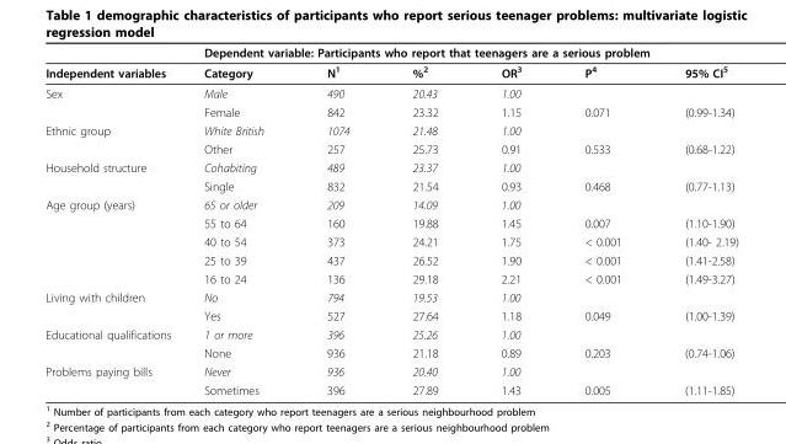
<table><thead><tr><td rowspan="2">Independent variables</td><td colspan="6">Dependent variable: Participants who report that teenagers are a serious problem</td></tr><tr><td>Category</td><td>N<sup>1</sup></td><td>%<sup>2</sup></td><td>OR<sup>3</sup></td><td>P<sup>4</sup></td><td>95% CI<sup>5</sup></td></tr></thead><tbody><tr><td rowspan="2">Sex</td><td>Male</td><td>490</td><td>20.43</td><td>1.00</td><td></td><td></td></tr><tr><td>Female</td><td>842</td><td>23.32</td><td>1.15</td><td>0.071</td><td>(0.99-1.34)</td></tr><tr><td rowspan="2">Ethnic group</td><td>White British</td><td>1074</td><td>21.48</td><td>1.00</td><td></td><td></td></tr><tr><td>Other</td><td>257</td><td>25.73</td><td>0.91</td><td>0.533</td><td>(0.68-1.22)</td></tr><tr><td rowspan="2">Household structure</td><td>Cohabiting</td><td>489</td><td>23.37</td><td>1.00</td><td></td><td></td></tr><tr><td>Single</td><td>832</td><td>21.54</td><td>0.93</td><td>0.468</td><td>(0.77-1.13)</td></tr><tr><td rowspan="5">Age group (years)</td><td>65 or older</td><td>209</td><td>14.09</td><td>1.00</td><td></td><td></td></tr><tr><td>55 to 64</td><td>160</td><td>19.88</td><td>1.45</td><td>0.007</td><td>(1.10-1.90)</td></tr><tr><td>40 to 54</td><td>373</td><td>24.21</td><td>1.75</td><td>&lt; 0.001</td><td>(1.40- 2.19)</td></tr><tr><td>25 to 39</td><td>437</td><td>26.52</td><td>1.90</td><td>&lt; 0.001</td><td>(1.41-2.58)</td></tr><tr><td>16 to 24</td><td>136</td><td>29.18</td><td>2.21</td><td>&lt; 0.001</td><td>(1.49-3.27)</td></tr><tr><td rowspan="2">Living with children</td><td>No</td><td>794</td><td>19.53</td><td>1.00</td><td></td><td></td></tr><tr><td>Yes</td><td>527</td><td>27.64</td><td>1.18</td><td>0.049</td><td>(1.00-1.39)</td></tr><tr><td rowspan="2">Educational qualifications</td><td>1 or more</td><td>396</td><td>25.26</td><td>1.00</td><td></td><td></td></tr><tr><td>None</td><td>936</td><td>21.18</td><td>0.89</td><td>0.203</td><td>(0.74-1.06)</td></tr><tr><td rowspan="2">Problems paying bills</td><td>Never</td><td>936</td><td>20.40</td><td>1.00</td><td></td><td></td></tr><tr><td>Sometimes</td><td>396</td><td>27.89</td><td>1.43</td><td>0.005</td><td>(1.11-1.85)</td></tr></tbody></table>